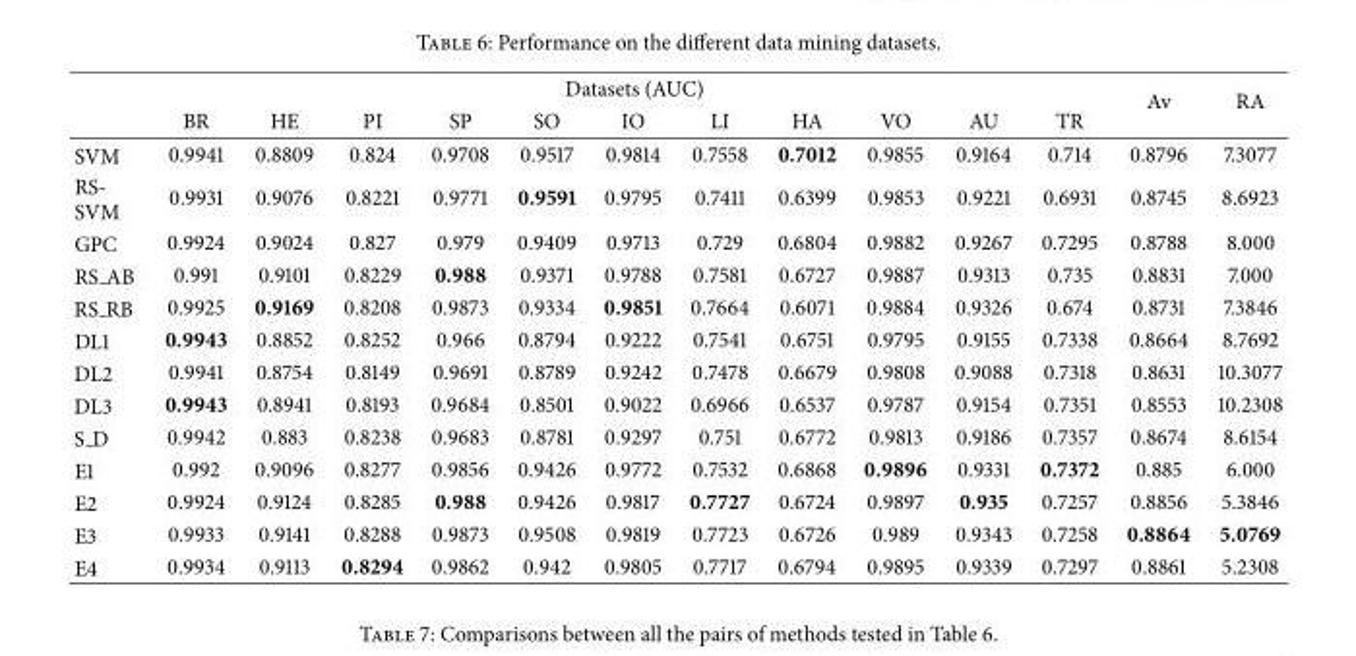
<table><thead><tr><td rowspan="2"></td><td colspan="11">Datasets (AUC)</td><td rowspan="2">Av</td><td rowspan="2">RA</td></tr><tr><td>BR</td><td>HE</td><td>PI</td><td>SP</td><td>SO</td><td>IO</td><td>LI</td><td>HA</td><td>VO</td><td>AU</td><td>TR</td></tr></thead><tbody><tr><td>SVM</td><td>0.9941</td><td>0.8809</td><td>0.824</td><td>0.9708</td><td>0.9517</td><td>0.9814</td><td>0.7558</td><td>0.7012</td><td>0.9855</td><td>0.9164</td><td>0.714</td><td>0.8796</td><td>7.3077</td></tr><tr><td>RS- SVM</td><td>0.9931</td><td>0.9076</td><td>0.8221</td><td>0.9771</td><td>0.9591</td><td>0.9795</td><td>0.7411</td><td>0.6399</td><td>0.9853</td><td>0.9221</td><td>0.6931</td><td>0.8745</td><td>8.6923</td></tr><tr><td>GPC</td><td>0.9924</td><td>0.9024</td><td>0.827</td><td>0.979</td><td>0.9409</td><td>0.9713</td><td>0.729</td><td>0.6804</td><td>0.9882</td><td>0.9267</td><td>0.7295</td><td>0.8788</td><td>8.000</td></tr><tr><td>RS AB</td><td>0.991</td><td>0.9101</td><td>0.8229</td><td>0.988</td><td>0.9371</td><td>0.9788</td><td>0.7581</td><td>0.6727</td><td>0.9887</td><td>0.9313</td><td>0.735</td><td>0.8831</td><td>7.000</td></tr><tr><td>RS RB</td><td>0.9925</td><td>0.9169</td><td>0.8208</td><td>0.9873</td><td>0.9334</td><td>0.9851</td><td>0.7664</td><td>0.6071</td><td>0.9884</td><td>0.9326</td><td>0.674</td><td>0.8731</td><td>7.3846</td></tr><tr><td>DL1</td><td>0.9943</td><td>0.8852</td><td>0.8252</td><td>0.966</td><td>0.8794</td><td>0.9222</td><td>0.7541</td><td>0.6751</td><td>0.9795</td><td>0.9155</td><td>0.7338</td><td>0.8664</td><td>8.7692</td></tr><tr><td>DL2</td><td>0.9941</td><td>0.8754</td><td>0.8149</td><td>0.9691</td><td>0.8789</td><td>0.9242</td><td>0.7478</td><td>0.6679</td><td>0.9808</td><td>0.9088</td><td>0.7318</td><td>0.8631</td><td>10.3077</td></tr><tr><td>DL3</td><td>0.9943</td><td>0.8941</td><td>0.8193</td><td>0.9684</td><td>0.8501</td><td>0.9022</td><td>0.6966</td><td>0.6537</td><td>0.9787</td><td>0.9154</td><td>0.7351</td><td>0.8553</td><td>10.2308</td></tr><tr><td>S D</td><td>0.9942</td><td>0.883</td><td>0.8238</td><td>0.9683</td><td>0.8781</td><td>0.9297</td><td>0.751</td><td>0.6772</td><td>0.9813</td><td>0.9186</td><td>0.7357</td><td>0.8674</td><td>8.6154</td></tr><tr><td>E1</td><td>0.992</td><td>0.9096</td><td>0.8277</td><td>0.9856</td><td>0.9426</td><td>0.9772</td><td>0.7532</td><td>0.6868</td><td>0.9896</td><td>0.9331</td><td>0.7372</td><td>0.885</td><td>6.000</td></tr><tr><td>E2</td><td>0.9924</td><td>0.9124</td><td>0.8285</td><td>0.988</td><td>0.9426</td><td>0.9817</td><td>0.7727</td><td>0.6724</td><td>0.9897</td><td>0.935</td><td>0.7257</td><td>0.8856</td><td>5.3846</td></tr><tr><td>E3</td><td>0.9933</td><td>0.9141</td><td>0.8288</td><td>0.9873</td><td>0.9508</td><td>0.9819</td><td>0.7723</td><td>0.6726</td><td>0.989</td><td>0.9343</td><td>0.7258</td><td>0.8864</td><td>5.0769</td></tr><tr><td>E4</td><td>0.9934</td><td>0.9113</td><td>0.8294</td><td>0.9862</td><td>0.942</td><td>0.9805</td><td>0.7717</td><td>0.6794</td><td>0.9895</td><td>0.9339</td><td>0.7297</td><td>0.8861</td><td>5.2308</td></tr></tbody></table>